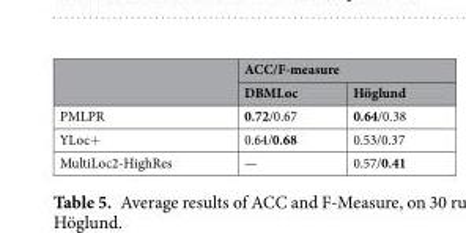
<table><thead><tr><td rowspan="2"></td><td colspan="2">ACC/F-measure</td></tr><tr><td>DBMLoc</td><td>Höglund</td></tr></thead><tbody><tr><td>PMLPR</td><td>0.72/0.67</td><td>0.64/0.38</td></tr><tr><td>YLoc+</td><td>0.64/0.68</td><td>0.53/0.37</td></tr><tr><td>MultiLoc2-HighRes</td><td>—</td><td>0.57/0.41</td></tr></tbody></table>